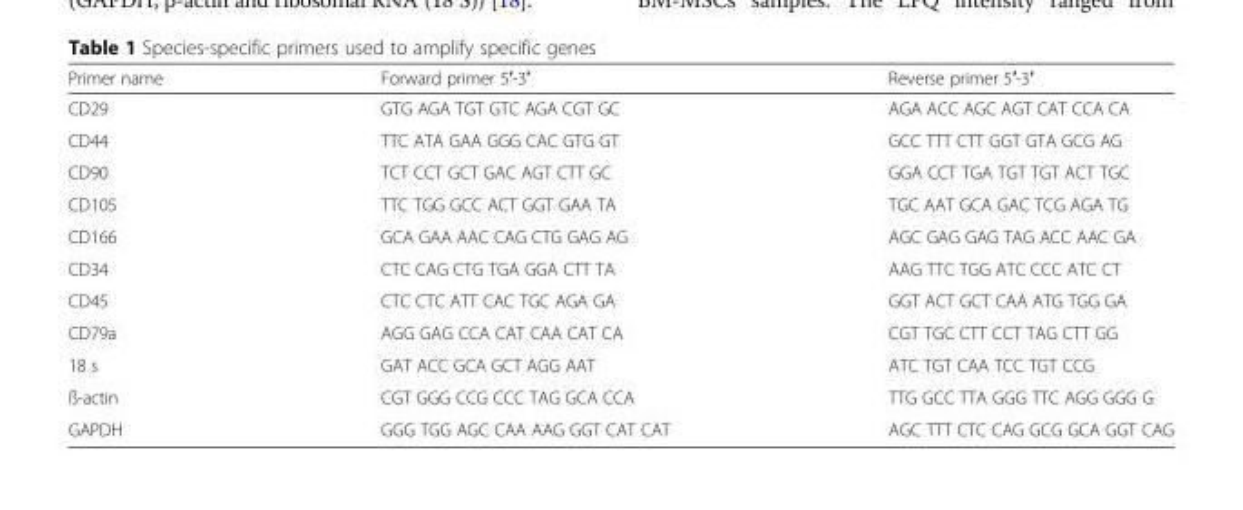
<table><thead><tr><td>Primer name</td><td>Forward primer 5′-3′</td><td>Reverse primer 5′-3′</td></tr></thead><tbody><tr><td>CD29</td><td>GTG AGA TGT GTC AGA CGT GC</td><td>AGA ACC AGC AGT CAT CCA CA</td></tr><tr><td>CD44</td><td>TTC ATA GAA GGG CAC GTG GT</td><td>GCC TTT CTT GGT GTA GCG AG</td></tr><tr><td>CD90</td><td>TCT CCT GCT GAC AGT CTT GC</td><td>GGA CCT TGA TGT TGT ACT TGC</td></tr><tr><td>CD105</td><td>TTC TGG GCC ACT GGT GAA TA</td><td>TGC AAT GCA GAC TCG AGA TG</td></tr><tr><td>CD166</td><td>GCA GAA AAC CAG CTG GAG AG</td><td>AGC GAG GAG TAG ACC AAC GA</td></tr><tr><td>CD34</td><td>CTC CAG CTG TGA GGA CTT TA</td><td>AAG TTC TGG ATC CCC ATC CT</td></tr><tr><td>CD45</td><td>CTC CTC ATT CAC TGC AGA GA</td><td>GGT ACT GCT CAA ATG TGG GA</td></tr><tr><td>CD79a</td><td>AGG GAG CCA CAT CAA CAT CA</td><td>CGT TGC CTT CCT TAG CTT GG</td></tr><tr><td>18 s</td><td>GAT ACC GCA GCT AGG AAT</td><td>ATC TGT CAA TCC TGT CCG</td></tr><tr><td>ß-actin</td><td>CGT GGG CCG CCC TAG GCA CCA</td><td>TTG GCC TTA GGG TTC AGG GGG G</td></tr><tr><td>GAPDH</td><td>GGG TGG AGC CAA AAG GGT CAT CAT</td><td>AGC TTT CTC CAG GCG GCA GGT CAG</td></tr></tbody></table>